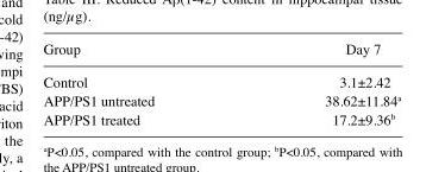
<table><thead><tr><td>Group</td><td>Day 7</td></tr></thead><tbody><tr><td>Control</td><td>3.1±2.42</td></tr><tr><td>APP/PS1 untreated</td><td>38.62±11.84<sup>a</sup></td></tr><tr><td>APP/PS1 treated</td><td>17.2±9.36<sup>b</sup></td></tr></tbody></table>